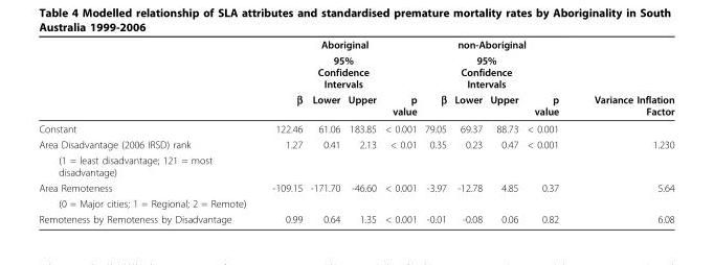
<table><thead><tr><td rowspan="3"></td><td colspan="4">Aboriginal</td><td colspan="4">non-Aboriginal</td><td rowspan="3">Variance Inflation Factor</td></tr><tr><td rowspan="2">β</td><td colspan="2">95% Confidence Intervals</td><td rowspan="2">p value</td><td rowspan="2">β</td><td colspan="2">95% Confidence Intervals</td><td rowspan="2">p value</td></tr><tr><td>Lower</td><td>Upper</td><td>Lower</td><td>Upper</td></tr></thead><tbody><tr><td>Constant</td><td>122.46</td><td>61.06</td><td>183.85</td><td>&lt; 0.001</td><td>79.05</td><td>69.37</td><td>88.73</td><td>&lt; 0.001</td><td></td></tr><tr><td>Area Disadvantage (2006 IRSD) rank</td><td>1.27</td><td>0.41</td><td>2.13</td><td>&lt; 0.01</td><td>0.35</td><td>0.23</td><td>0.47</td><td>&lt; 0.001</td><td>1.230</td></tr><tr><td colspan="10">(1 = least disadvantage; 121 = most disadvantage)</td></tr><tr><td>Area Remoteness</td><td>-109.15</td><td>-171.70</td><td>-46.60</td><td>&lt; 0.001</td><td>-3.97</td><td>-12.78</td><td>4.85</td><td>0.37</td><td>5.64</td></tr><tr><td colspan="10">(0 = Major cities; 1 = Regional; 2 = Remote)</td></tr><tr><td>Remoteness by Remoteness by Disadvantage</td><td>0.99</td><td>0.64</td><td>1.35</td><td>&lt; 0.001</td><td>-0.01</td><td>-0.08</td><td>0.06</td><td>0.82</td><td>6.08</td></tr></tbody></table>